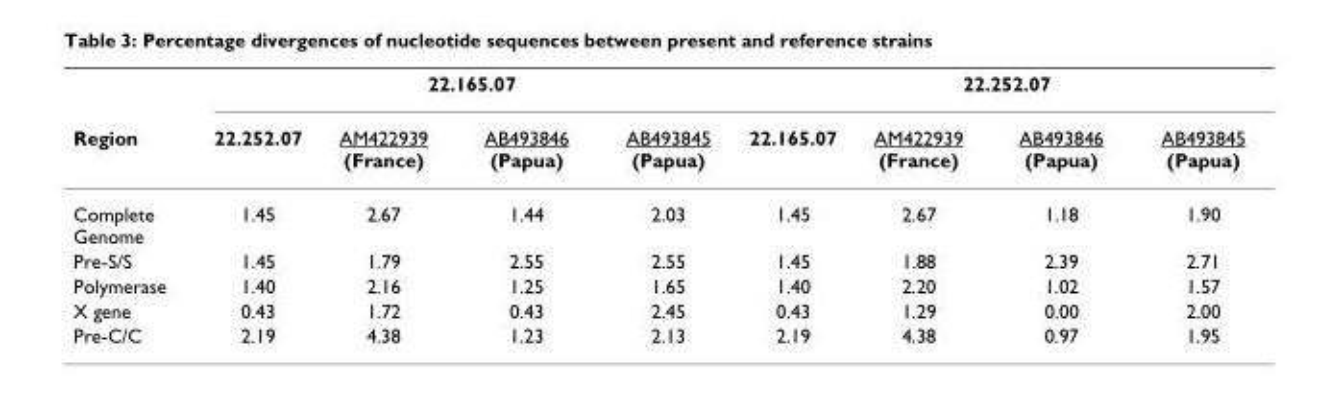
<table><thead><tr><td rowspan="2">Region</td><td colspan="4">22.165.07</td><td colspan="4">22.252.07</td></tr><tr><td>22.252.07</td><td>AM422939 (France)</td><td>AB493846 (Papua)</td><td>AB493845 (Papua)</td><td>22.165.07</td><td>AM422939 (France)</td><td>AB493846 (Papua)</td><td>AB493845 (Papua)</td></tr></thead><tbody><tr><td>Complete Genome</td><td>1.45</td><td>2.67</td><td>1.44</td><td>2.03</td><td>1.45</td><td>2.67</td><td>1.18</td><td>1.90</td></tr><tr><td>Pre-S/S</td><td>1.45</td><td>1.79</td><td>2.55</td><td>2.55</td><td>1.45</td><td>1.88</td><td>2.39</td><td>2.71</td></tr><tr><td>Polymerase</td><td>1.40</td><td>2.16</td><td>1.25</td><td>1.65</td><td>1.40</td><td>2.20</td><td>1.02</td><td>1.57</td></tr><tr><td>X gene</td><td>0.43</td><td>1.72</td><td>0.43</td><td>2.45</td><td>0.43</td><td>1.29</td><td>0.00</td><td>2.00</td></tr><tr><td>Pre-C/C</td><td>2.19</td><td>4.38</td><td>1.23</td><td>2.13</td><td>2.19</td><td>4.38</td><td>0.97</td><td>1.95</td></tr></tbody></table>